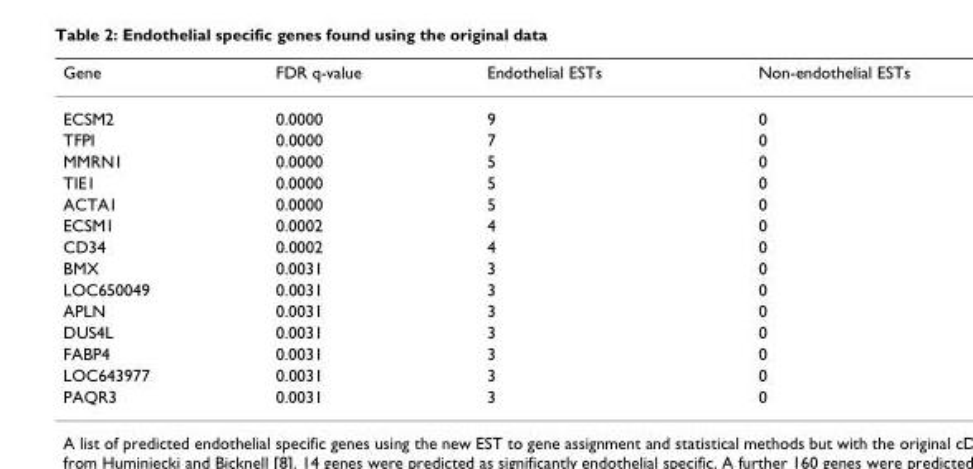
<table><thead><tr><td>Gene</td><td>FDR q-value</td><td>Endothelial ESTs</td><td>Non-endothelial ESTs</td></tr></thead><tbody><tr><td>ECSM2</td><td>0.0000</td><td>9</td><td>0</td></tr><tr><td>TFPI</td><td>0.0000</td><td>7</td><td>0</td></tr><tr><td>MMRN1</td><td>0.0000</td><td>5</td><td>0</td></tr><tr><td>TIE1</td><td>0.0000</td><td>5</td><td>0</td></tr><tr><td>ACTA1</td><td>0.0000</td><td>5</td><td>0</td></tr><tr><td>ECSM1</td><td>0.0002</td><td>4</td><td>0</td></tr><tr><td>CD34</td><td>0.0002</td><td>4</td><td>0</td></tr><tr><td>BMX</td><td>0.0031</td><td>3</td><td>0</td></tr><tr><td>LOC650049</td><td>0.0031</td><td>3</td><td>0</td></tr><tr><td>APLN</td><td>0.0031</td><td>3</td><td>0</td></tr><tr><td>DUS4L</td><td>0.0031</td><td>3</td><td>0</td></tr><tr><td>FABP4</td><td>0.0031</td><td>3</td><td>0</td></tr><tr><td>LOC643977</td><td>0.0031</td><td>3</td><td>0</td></tr><tr><td>PAQR3</td><td>0.0031</td><td>3</td><td>0</td></tr></tbody></table>